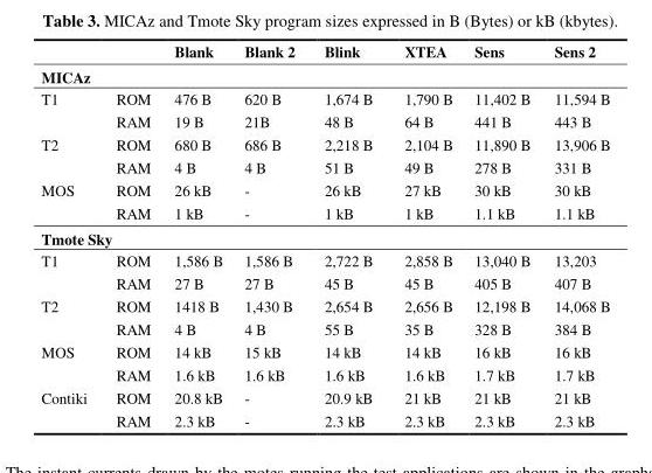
<table><thead><tr><td></td><td></td><td>Blank</td><td>Blank 2</td><td>Blink</td><td>XTEA</td><td>Sens</td><td>Sens 2</td></tr></thead><tbody><tr><td colspan="8">MICAz</td></tr><tr><td rowspan="2">T1</td><td>ROM</td><td>476 B</td><td>620 B</td><td>1,674 B</td><td>1,790 B</td><td>11,402 B</td><td>11,594 B</td></tr><tr><td>RAM</td><td>19 B</td><td>21B</td><td>48 B</td><td>64 B</td><td>441 B</td><td>443 B</td></tr><tr><td rowspan="2">T2</td><td>ROM</td><td>680 B</td><td>686 B</td><td>2,218 B</td><td>2,104 B</td><td>11,890 B</td><td>13,906 B</td></tr><tr><td>RAM</td><td>4 B</td><td>4 B</td><td>51 B</td><td>49 B</td><td>278 B</td><td>331 B</td></tr><tr><td rowspan="2">MOS</td><td>ROM</td><td>26 kB</td><td>-</td><td>26 kB</td><td>27 kB</td><td>30 kB</td><td>30 kB</td></tr><tr><td>RAM</td><td>1 kB</td><td>-</td><td>1 kB</td><td>1 kB</td><td>1.1 kB</td><td>1.1 kB</td></tr><tr><td colspan="8">Tmote Sky</td></tr><tr><td rowspan="2">T1</td><td>ROM</td><td>1,586 B</td><td>1,586 B</td><td>2,722 B</td><td>2,858 B</td><td>13,040 B</td><td>13,203</td></tr><tr><td>RAM</td><td>27 B</td><td>27 B</td><td>45 B</td><td>45 B</td><td>405 B</td><td>407 B</td></tr><tr><td rowspan="2">T2</td><td>ROM</td><td>1418 B</td><td>1,430 B</td><td>2,654 B</td><td>2,656 B</td><td>12,198 B</td><td>14,068 B</td></tr><tr><td>RAM</td><td>4 B</td><td>4 B</td><td>55 B</td><td>35 B</td><td>328 B</td><td>384 B</td></tr><tr><td rowspan="2">MOS</td><td>ROM</td><td>14 kB</td><td>15 kB</td><td>14 kB</td><td>14 kB</td><td>16 kB</td><td>16 kB</td></tr><tr><td>RAM</td><td>1.6 kB</td><td>1.6 kB</td><td>1.6 kB</td><td>1.6 kB</td><td>1.7 kB</td><td>1.7 kB</td></tr><tr><td rowspan="2">Contiki</td><td>ROM</td><td>20.8 kB</td><td>-</td><td>20.9 kB</td><td>21 kB</td><td>21 kB</td><td>21 kB</td></tr><tr><td>RAM</td><td>2.3 kB</td><td>-</td><td>2.3 kB</td><td>2.3 kB</td><td>2.3 kB</td><td>2.3 kB</td></tr></tbody></table>